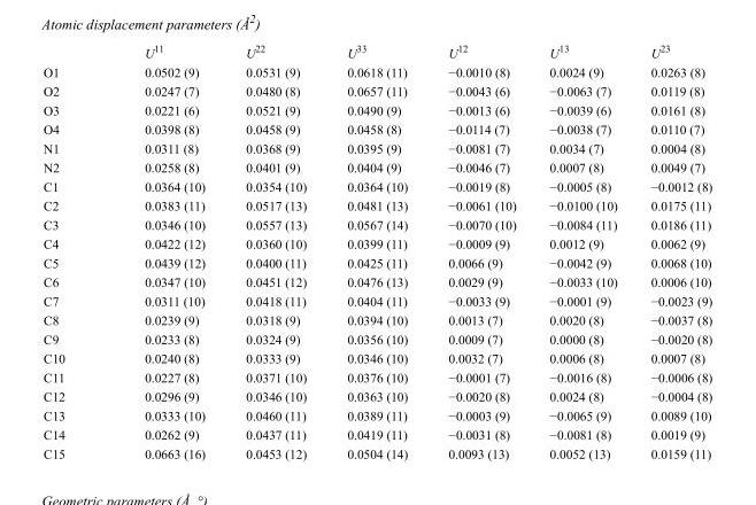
<table><thead><tr><td></td><td>U<sup>11</sup></td><td>U<sup>22</sup></td><td>U<sup>33</sup></td><td>U<sup>12</sup></td><td>U<sup>13</sup></td><td>U<sup>23</sup></td></tr></thead><tbody><tr><td>O1</td><td>0.0502 (9)</td><td>0.0531 (9)</td><td>0.0618 (11)</td><td>−0.0010 (8)</td><td>0.0024 (9)</td><td>0.0263 (8)</td></tr><tr><td>O2</td><td>0.0247 (7)</td><td>0.0480 (8)</td><td>0.0657 (11)</td><td>−0.0043 (6)</td><td>−0.0063 (7)</td><td>0.0119 (8)</td></tr><tr><td>O3</td><td>0.0221 (6)</td><td>0.0521 (9)</td><td>0.0490 (9)</td><td>−0.0013 (6)</td><td>−0.0039 (6)</td><td>0.0161 (8)</td></tr><tr><td>O4</td><td>0.0398 (8)</td><td>0.0458 (9)</td><td>0.0458 (8)</td><td>−0.0114 (7)</td><td>−0.0038 (7)</td><td>0.0110 (7)</td></tr><tr><td>N1</td><td>0.0311 (8)</td><td>0.0368 (9)</td><td>0.0395 (9)</td><td>−0.0081 (7)</td><td>0.0034 (7)</td><td>0.0004 (8)</td></tr><tr><td>N2</td><td>0.0258 (8)</td><td>0.0401 (9)</td><td>0.0404 (9)</td><td>−0.0046 (7)</td><td>0.0007 (8)</td><td>0.0049 (7)</td></tr><tr><td>C1</td><td>0.0364 (10)</td><td>0.0354 (10)</td><td>0.0364 (10)</td><td>−0.0019 (8)</td><td>−0.0005 (8)</td><td>−0.0012 (8)</td></tr><tr><td>C2</td><td>0.0383 (11)</td><td>0.0517 (13)</td><td>0.0481 (13)</td><td>−0.0061 (10)</td><td>−0.0100 (10)</td><td>0.0175 (11)</td></tr><tr><td>C3</td><td>0.0346 (10)</td><td>0.0557 (13)</td><td>0.0567 (14)</td><td>−0.0070 (10)</td><td>−0.0084 (11)</td><td>0.0186 (11)</td></tr><tr><td>C4</td><td>0.0422 (12)</td><td>0.0360 (10)</td><td>0.0399 (11)</td><td>−0.0009 (9)</td><td>0.0012 (9)</td><td>0.0062 (9)</td></tr><tr><td>C5</td><td>0.0439 (12)</td><td>0.0400 (11)</td><td>0.0425 (11)</td><td>0.0066 (9)</td><td>−0.0042 (9)</td><td>0.0068 (10)</td></tr><tr><td>C6</td><td>0.0347 (10)</td><td>0.0451 (12)</td><td>0.0476 (13)</td><td>0.0029 (9)</td><td>−0.0033 (10)</td><td>0.0006 (10)</td></tr><tr><td>C7</td><td>0.0311 (10)</td><td>0.0418 (11)</td><td>0.0404 (11)</td><td>−0.0033 (9)</td><td>−0.0001 (9)</td><td>−0.0023 (9)</td></tr><tr><td>C8</td><td>0.0239 (9)</td><td>0.0318 (9)</td><td>0.0394 (10)</td><td>0.0013 (7)</td><td>0.0020 (8)</td><td>−0.0037 (8)</td></tr><tr><td>C9</td><td>0.0233 (8)</td><td>0.0324 (9)</td><td>0.0356 (10)</td><td>0.0009 (7)</td><td>0.0000 (8)</td><td>−0.0020 (8)</td></tr><tr><td>C10</td><td>0.0240 (8)</td><td>0.0333 (9)</td><td>0.0346 (10)</td><td>0.0032 (7)</td><td>0.0006 (8)</td><td>0.0007 (8)</td></tr><tr><td>C11</td><td>0.0227 (8)</td><td>0.0371 (10)</td><td>0.0376 (10)</td><td>−0.0001 (7)</td><td>−0.0016 (8)</td><td>−0.0006 (8)</td></tr><tr><td>C12</td><td>0.0296 (9)</td><td>0.0346 (10)</td><td>0.0363 (10)</td><td>−0.0020 (8)</td><td>0.0024 (8)</td><td>−0.0004 (8)</td></tr><tr><td>C13</td><td>0.0333 (10)</td><td>0.0460 (11)</td><td>0.0389 (11)</td><td>−0.0003 (9)</td><td>−0.0065 (9)</td><td>0.0089 (10)</td></tr><tr><td>C14</td><td>0.0262 (9)</td><td>0.0437 (11)</td><td>0.0419 (11)</td><td>−0.0031 (8)</td><td>−0.0081 (8)</td><td>0.0019 (9)</td></tr><tr><td>C15</td><td>0.0663 (16)</td><td>0.0453 (12)</td><td>0.0504 (14)</td><td>0.0093 (13)</td><td>0.0052 (13)</td><td>0.0159 (11)</td></tr></tbody></table>